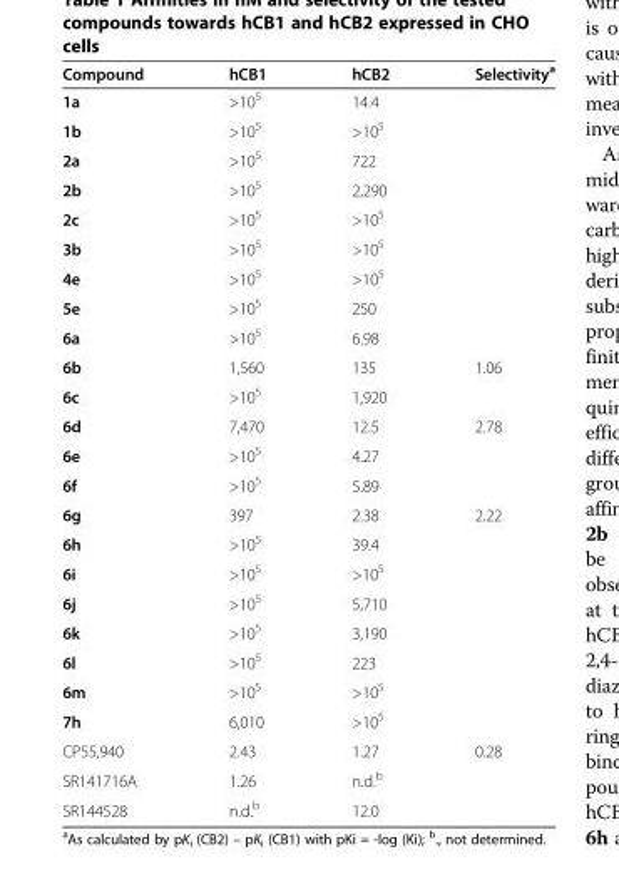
<table><thead><tr><td>Compound</td><td>hCB1</td><td>hCB2</td><td>Selectivity<sup>a</sup></td></tr></thead><tbody><tr><td>1a</td><td>&gt;10<sup>5</sup></td><td>14.4</td><td></td></tr><tr><td>1b</td><td>&gt;10<sup>5</sup></td><td>&gt;10<sup>5</sup></td><td></td></tr><tr><td>2a</td><td>&gt;10<sup>5</sup></td><td>722</td><td></td></tr><tr><td>2b</td><td>&gt;10<sup>5</sup></td><td>2,290</td><td></td></tr><tr><td>2c</td><td>&gt;10<sup>5</sup></td><td>&gt;10<sup>5</sup></td><td></td></tr><tr><td>3b</td><td>&gt;10<sup>5</sup></td><td>&gt;10<sup>5</sup></td><td></td></tr><tr><td>4e</td><td>&gt;10<sup>5</sup></td><td>&gt;10<sup>5</sup></td><td></td></tr><tr><td>5e</td><td>&gt;10<sup>5</sup></td><td>250</td><td></td></tr><tr><td>6a</td><td>&gt;10<sup>5</sup></td><td>6.98</td><td></td></tr><tr><td>6b</td><td>1,560</td><td>135</td><td>1.06</td></tr><tr><td>6c</td><td>&gt;10<sup>5</sup></td><td>1,920</td><td></td></tr><tr><td>6d</td><td>7,470</td><td>12.5</td><td>2.78</td></tr><tr><td>6e</td><td>&gt;10<sup>5</sup></td><td>4.27</td><td></td></tr><tr><td>6f</td><td>&gt;10<sup>5</sup></td><td>5.89</td><td></td></tr><tr><td>6g</td><td>397</td><td>2.38</td><td>2.22</td></tr><tr><td>6h</td><td>&gt;10<sup>5</sup></td><td>39.4</td><td></td></tr><tr><td>6i</td><td>&gt;10<sup>5</sup></td><td>&gt;10<sup>5</sup></td><td></td></tr><tr><td>6j</td><td>&gt;10<sup>5</sup></td><td>5,710</td><td></td></tr><tr><td>6k</td><td>&gt;10<sup>5</sup></td><td>3,190</td><td></td></tr><tr><td>6l</td><td>&gt;10<sup>5</sup></td><td>223</td><td></td></tr><tr><td>6m</td><td>&gt;10<sup>5</sup></td><td>&gt;10<sup>5</sup></td><td></td></tr><tr><td>7h</td><td>6,010</td><td>&gt;10<sup>5</sup></td><td></td></tr><tr><td>CP55,940</td><td>2.43</td><td>1.27</td><td>0.28</td></tr><tr><td>SR141716A</td><td>1.26</td><td>n.d.<sup>b</sup></td><td></td></tr><tr><td>SR144528</td><td>n.d.<sup>b</sup></td><td>12.0</td><td></td></tr></tbody></table>